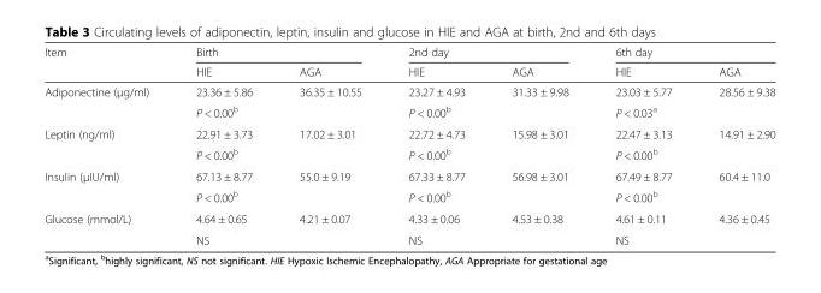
<table><thead><tr><td rowspan="2">Item</td><td colspan="2">Birth</td><td colspan="2">2nd day</td><td colspan="2">6th day</td></tr><tr><td>HIE</td><td>AGA</td><td>HIE</td><td>AGA</td><td>HIE</td><td>AGA</td></tr></thead><tbody><tr><td rowspan="2">Adiponectine (μg/ml)</td><td>23.36 ± 5.86</td><td>36.35 ± 10.55</td><td>23.27 ± 4.93</td><td>31.33 ± 9.98</td><td>23.03 ± 5.77</td><td>28.56 ± 9.38</td></tr><tr><td colspan="2">P &lt; 0.00<sup>b</sup></td><td colspan="2">P &lt; 0.00<sup>b</sup></td><td colspan="2">P &lt; 0.03<sup>a</sup></td></tr><tr><td rowspan="2">Leptin (ng/ml)</td><td>22.91 ± 3.73</td><td>17.02 ± 3.01</td><td>22.72 ± 4.73</td><td>15.98 ± 3.01</td><td>22.47 ± 3.13</td><td>14.91 ± 2.90</td></tr><tr><td colspan="2">P &lt; 0.00<sup>b</sup></td><td colspan="2">P &lt; 0.00<sup>b</sup></td><td colspan="2">P &lt; 0.00<sup>b</sup></td></tr><tr><td rowspan="2">Insulin (μIU/ml)</td><td>67.13 ± 8.77</td><td>55.0 ± 9.19</td><td>67.33 ± 8.77</td><td>56.98 ± 3.01</td><td>67.49 ± 8.77</td><td>60.4 ± 11.0</td></tr><tr><td colspan="2">P &lt; 0.00<sup>b</sup></td><td colspan="2">P &lt; 0.00<sup>b</sup></td><td colspan="2">P &lt; 0.00<sup>b</sup></td></tr><tr><td rowspan="2">Glucose (mmol/L)</td><td>4.64 ± 0.65</td><td>4.21 ± 0.07</td><td>4.33 ± 0.06</td><td>4.53 ± 0.38</td><td>4.61 ± 0.11</td><td>4.36 ± 0.45</td></tr><tr><td colspan="2">NS</td><td colspan="2">NS</td><td colspan="2">NS</td></tr></tbody></table>